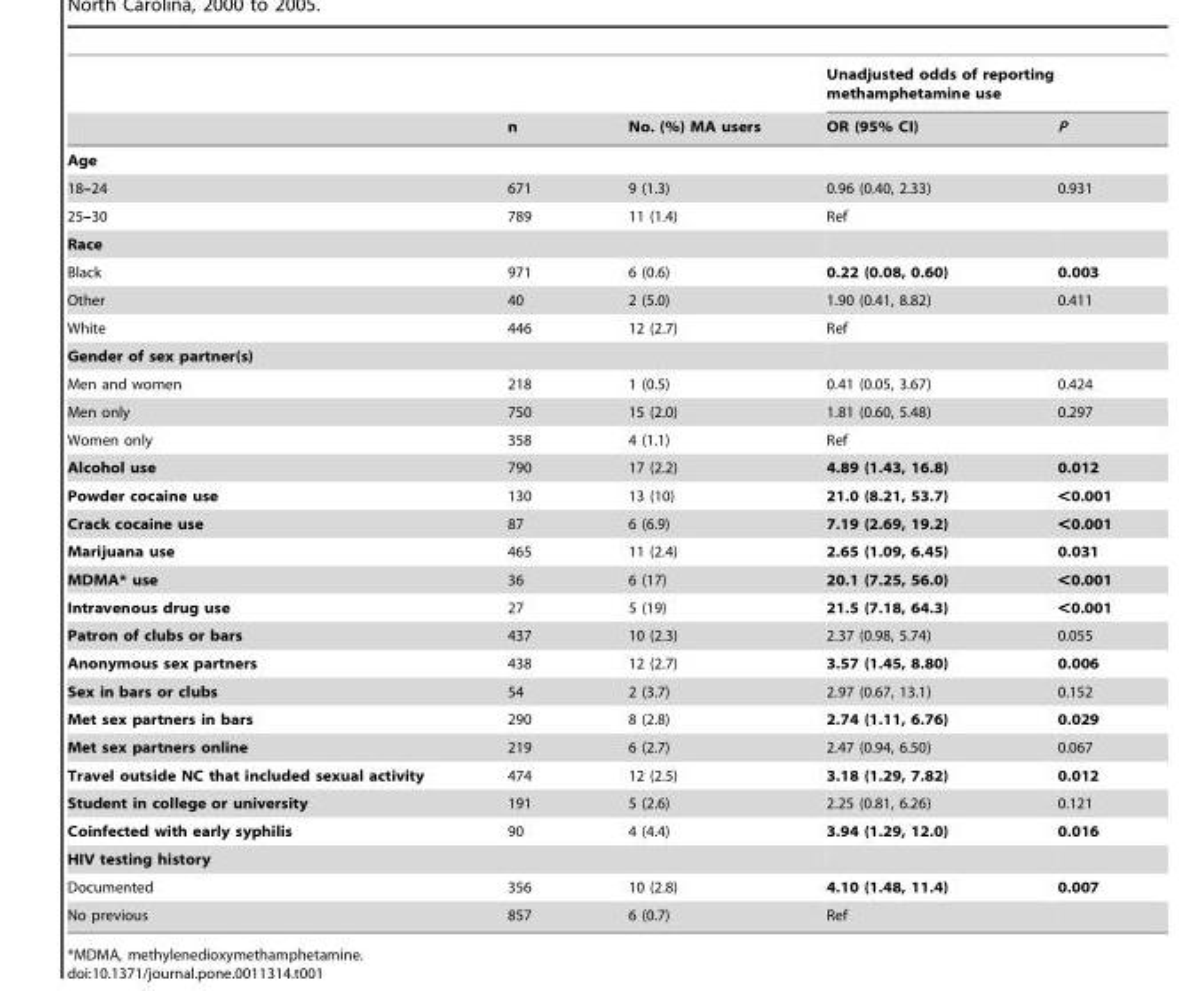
<table><thead><tr><td rowspan="2"></td><td rowspan="2">n</td><td rowspan="2">No. (%) MA users</td><td colspan="2">Unadjusted odds of reporting methamphetamine use</td></tr><tr><td>OR (95% CI)</td><td>P</td></tr></thead><tbody><tr><td colspan="5">Age</td></tr><tr><td>18–24</td><td>671</td><td>9 (1.3)</td><td>0.96 (0.40, 2.33)</td><td>0.931</td></tr><tr><td>25–30</td><td>789</td><td>11 (1.4)</td><td>Ref</td><td></td></tr><tr><td colspan="5">Race</td></tr><tr><td>Black</td><td>971</td><td>6 (0.6)</td><td>0.22 (0.08, 0.60)</td><td>0.003</td></tr><tr><td>Other</td><td>40</td><td>2 (5.0)</td><td>1.90 (0.41, 8.82)</td><td>0.411</td></tr><tr><td>White</td><td>446</td><td>12 (2.7)</td><td>Ref</td><td></td></tr><tr><td colspan="5">Gender of sex partner(s)</td></tr><tr><td>Men and women</td><td>218</td><td>1 (0.5)</td><td>0.41 (0.05, 3.67)</td><td>0.424</td></tr><tr><td>Men only</td><td>750</td><td>15 (2.0)</td><td>1.81 (0.60, 5.48)</td><td>0.297</td></tr><tr><td>Women only</td><td>358</td><td>4 (1.1)</td><td>Ref</td><td></td></tr><tr><td>Alcohol use</td><td>790</td><td>17 (2.2)</td><td>4.89 (1.43, 16.8)</td><td>0.012</td></tr><tr><td>Powder cocaine use</td><td>130</td><td>13 (10)</td><td>21.0 (8.21, 53.7)</td><td>&lt;0.001</td></tr><tr><td>Crack cocaine use</td><td>87</td><td>6 (6.9)</td><td>7.19 (2.69, 19.2)</td><td>&lt;0.001</td></tr><tr><td>Marijuana use</td><td>465</td><td>11 (2.4)</td><td>2.65 (1.09, 6.45)</td><td>0.031</td></tr><tr><td>MDMA* use</td><td>36</td><td>6 (17)</td><td>20.1 (7.25, 56.0)</td><td>&lt;0.001</td></tr><tr><td>Intravenous drug use</td><td>27</td><td>5 (19)</td><td>21.5 (7.18, 64.3)</td><td>&lt;0.001</td></tr><tr><td>Patron of clubs or bars</td><td>437</td><td>10 (2.3)</td><td>2.37 (0.98, 5.74)</td><td>0.055</td></tr><tr><td>Anonymous sex partners</td><td>438</td><td>12 (2.7)</td><td>3.57 (1.45, 8.80)</td><td>0.006</td></tr><tr><td>Sex in bars or clubs</td><td>54</td><td>2 (3.7)</td><td>2.97 (0.67, 13.1)</td><td>0.152</td></tr><tr><td>Met sex partners in bars</td><td>290</td><td>8 (2.8)</td><td>2.74 (1.11, 6.76)</td><td>0.029</td></tr><tr><td>Met sex partners online</td><td>219</td><td>6 (2.7)</td><td>2.47 (0.94, 6.50)</td><td>0.067</td></tr><tr><td>Travel outside NC that included sexual activity</td><td>474</td><td>12 (2.5)</td><td>3.18 (1.29, 7.82)</td><td>0.012</td></tr><tr><td>Student in college or university</td><td>191</td><td>5 (2.6)</td><td>2.25 (0.81, 6.26)</td><td>0.121</td></tr><tr><td>Coinfected with early syphilis</td><td>90</td><td>4 (4.4)</td><td>3.94 (1.29, 12.0)</td><td>0.016</td></tr><tr><td colspan="5">HIV testing history</td></tr><tr><td>Documented</td><td>356</td><td>10 (2.8)</td><td>4.10 (1.48, 11.4)</td><td>0.007</td></tr><tr><td>No previous</td><td>857</td><td>6 (0.7)</td><td>Ref</td><td></td></tr></tbody></table>